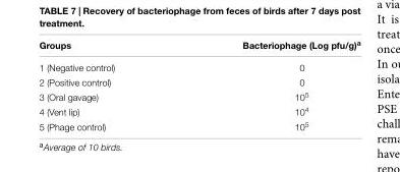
<table><thead><tr><td>Groups</td><td>Bacteriophage (Log pfu/g)<sup>a</sup></td></tr></thead><tbody><tr><td>1 (Negative control)</td><td>0</td></tr><tr><td>2 (Positive control)</td><td>0</td></tr><tr><td>3 (Oral gavage)</td><td>10<sup>5</sup></td></tr><tr><td>4 (Vent lip)</td><td>10<sup>4</sup></td></tr><tr><td>5 (Phage control)</td><td>10<sup>5</sup></td></tr></tbody></table>